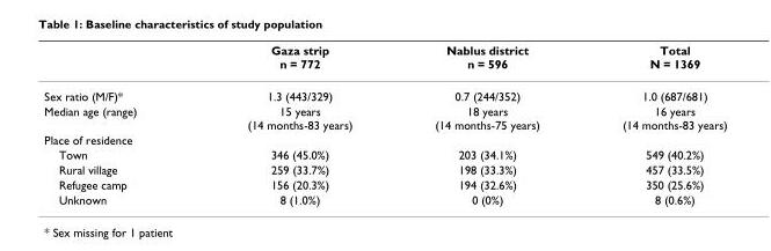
<table><thead><tr><td></td><td>Gaza strip n = 772</td><td>Nablus district n = 596</td><td>Total N = 1369</td></tr></thead><tbody><tr><td>Sex ratio (M/F)*</td><td>1.3 (443/329)</td><td>0.7 (244/352)</td><td>1.0 (687/681)</td></tr><tr><td>Median age (range)</td><td>15 years (14 months-83 years)</td><td>18 years (14 months-75 years)</td><td>16 years (14 months-83 years)</td></tr><tr><td colspan="4">Place of residence</td></tr><tr><td>Town</td><td>346 (45.0%)</td><td>203 (34.1%)</td><td>549 (40.2%)</td></tr><tr><td>Rural village</td><td>259 (33.7%)</td><td>198 (33.3%)</td><td>457 (33.5%)</td></tr><tr><td>Refugee camp</td><td>156 (20.3%)</td><td>194 (32.6%)</td><td>350 (25.6%)</td></tr><tr><td>Unknown</td><td>8 (1.0%)</td><td>0 (0%)</td><td>8 (0.6%)</td></tr></tbody></table>